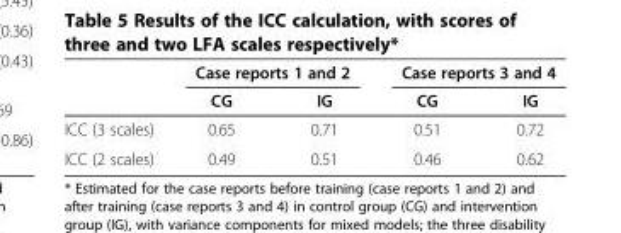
<table><thead><tr><td rowspan="2"></td><td colspan="2">Case reports 1 and 2</td><td colspan="2">Case reports 3 and 4</td></tr><tr><td>CG</td><td>IG</td><td>CG</td><td>IG</td></tr></thead><tbody><tr><td>ICC (3 scales)</td><td>0.65</td><td>0.71</td><td>0.51</td><td>0.72</td></tr><tr><td>ICC (2 scales)</td><td>0.49</td><td>0.51</td><td>0.46</td><td>0.62</td></tr></tbody></table>